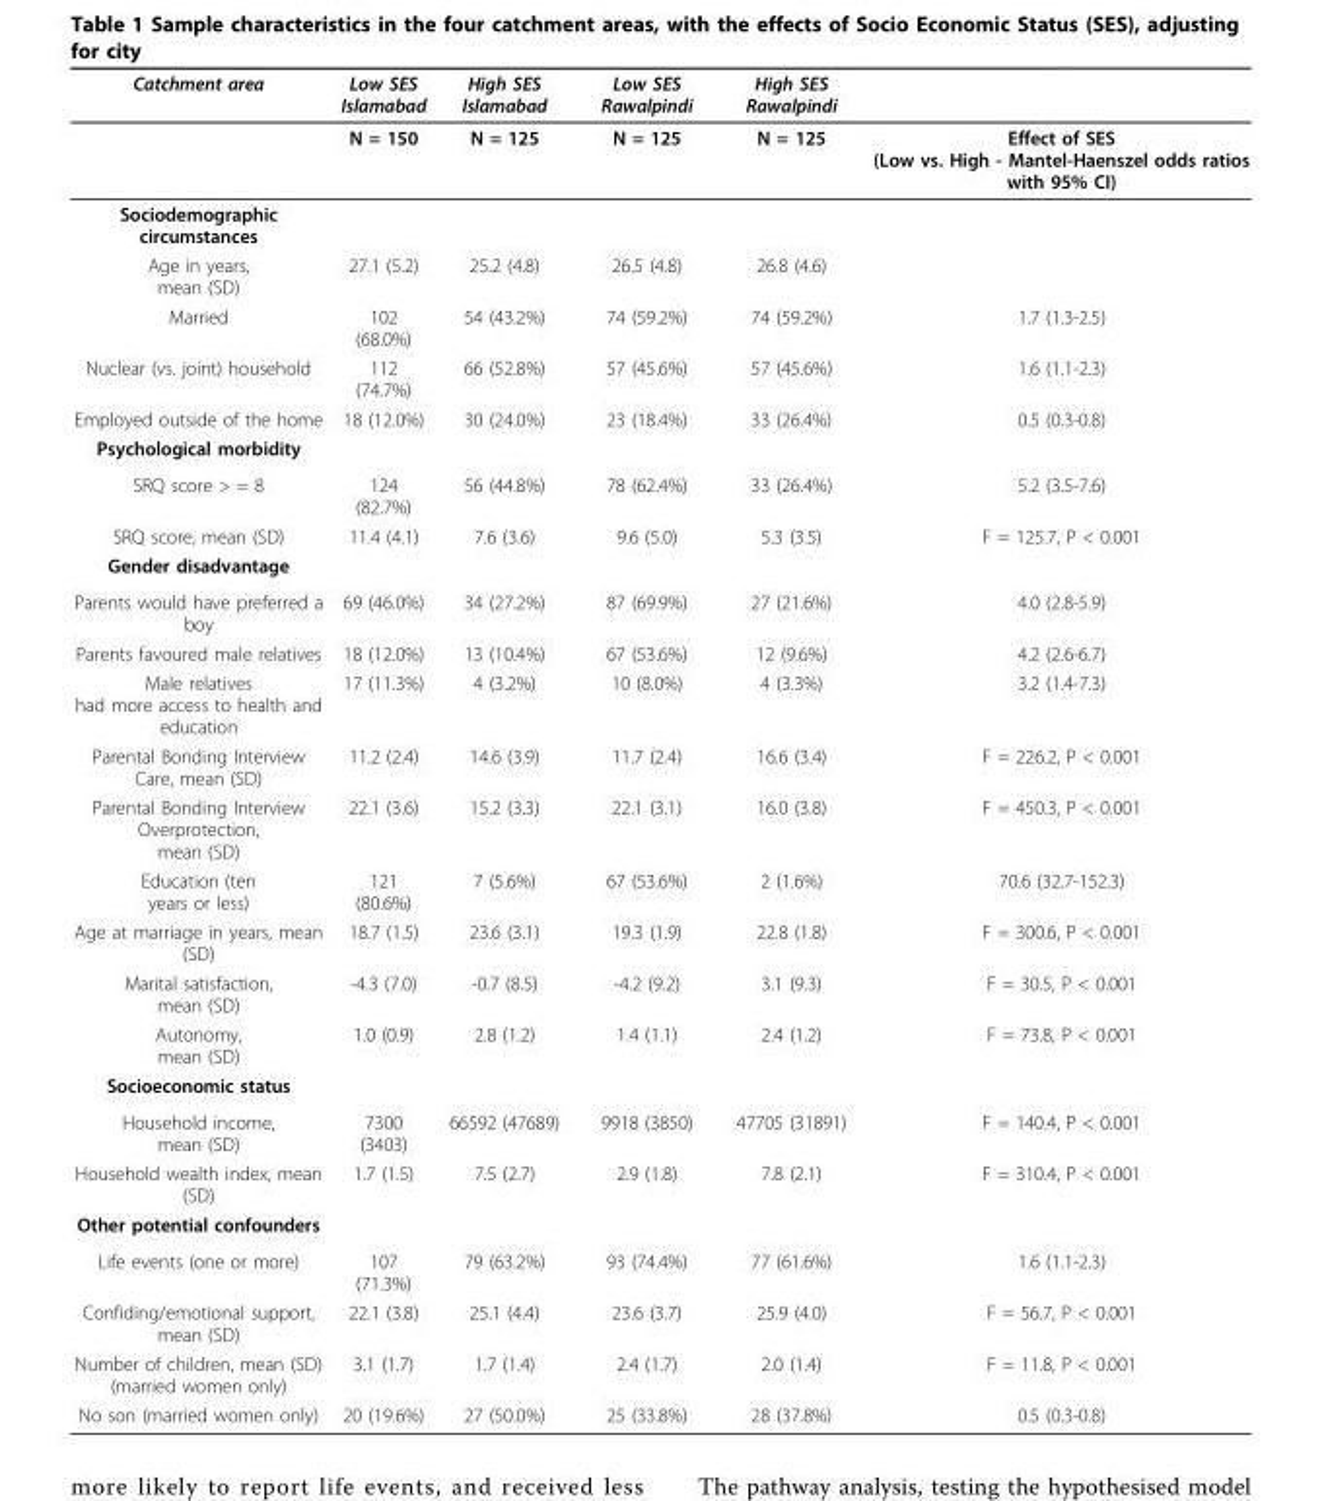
<table><thead><tr><td>Catchment area</td><td>Low SES Islamabad</td><td>High SES Islamabad</td><td>Low SES Rawalpindi</td><td>High SES Rawalpindi</td><td></td></tr></thead><tbody><tr><td></td><td>N = 150</td><td>N = 125</td><td>N = 125</td><td>N = 125</td><td>Effect of SES (Low vs. High - Mantel-Haenszel odds ratios with 95% CI)</td></tr><tr><td colspan="6">Sociodemographic circumstances</td></tr><tr><td>Age in years, mean (SD)</td><td>27.1 (5.2)</td><td>25.2 (4.8)</td><td>26.5 (4.8)</td><td>26.8 (4.6)</td><td></td></tr><tr><td>Married</td><td>102 (68.0%)</td><td>54 (43.2%)</td><td>74 (59.2%)</td><td>74 (59.2%)</td><td>1.7 (1.3-2.5)</td></tr><tr><td>Nuclear (vs. joint) household</td><td>112 (74.7%)</td><td>66 (52.8%)</td><td>57 (45.6%)</td><td>57 (45.6%)</td><td>1.6 (1.1-2.3)</td></tr><tr><td>Employed outside of the home</td><td>18 (12.0%)</td><td>30 (24.0%)</td><td>23 (18.4%)</td><td>33 (26.4%)</td><td>0.5 (0.3-0.8)</td></tr><tr><td colspan="6">Psychological morbidity</td></tr><tr><td>SRQ score &gt; = 8</td><td>124 (82.7%)</td><td>56 (44.8%)</td><td>78 (62.4%)</td><td>33 (26.4%)</td><td>5.2 (3.5-7.6)</td></tr><tr><td>SRQ score, mean (SD)</td><td>11.4 (4.1)</td><td>7.6 (3.6)</td><td>9.6 (5.0)</td><td>5.3 (3.5)</td><td>F = 125.7, P &lt; 0.001</td></tr><tr><td colspan="6">Gender disadvantage</td></tr><tr><td>Parents would have preferred a boy</td><td>69 (46.0%)</td><td>34 (27.2%)</td><td>87 (69.9%)</td><td>27 (21.6%)</td><td>4.0 (2.8-5.9)</td></tr><tr><td>Parents favoured male relatives</td><td>18 (12.0%)</td><td>13 (10.4%)</td><td>67 (53.6%)</td><td>12 (9.6%)</td><td>4.2 (2.6-6.7)</td></tr><tr><td>Male relatives had more access to health and education</td><td>17 (11.3%)</td><td>4 (3.2%)</td><td>10 (8.0%)</td><td>4 (3.3%)</td><td>3.2 (1.4-7.3)</td></tr><tr><td>Parental Bonding Interview Care, mean (SD)</td><td>11.2 (2.4)</td><td>14.6 (3.9)</td><td>11.7 (2.4)</td><td>16.6 (3.4)</td><td>F = 226.2, P &lt; 0.001</td></tr><tr><td>Parental Bonding Interview Overprotection, mean (SD)</td><td>22.1 (3.6)</td><td>15.2 (3.3)</td><td>22.1 (3.1)</td><td>16.0 (3.8)</td><td>F = 450.3, P &lt; 0.001</td></tr><tr><td>Education (ten years or less)</td><td>121 (80.6%)</td><td>7 (5.6%)</td><td>67 (53.6%)</td><td>2 (1.6%)</td><td>70.6 (32.7-152.3)</td></tr><tr><td>Age at marriage in years, mean (SD)</td><td>18.7 (1.5)</td><td>23.6 (3.1)</td><td>19.3 (1.9)</td><td>22.8 (1.8)</td><td>F = 300.6, P &lt; 0.001</td></tr><tr><td>Marital satisfaction, mean (SD)</td><td>-4.3 (7.0)</td><td>-0.7 (8.5)</td><td>-4.2 (9.2)</td><td>3.1 (9.3)</td><td>F = 30.5, P &lt; 0.001</td></tr><tr><td>Autonomy, mean (SD)</td><td>1.0 (0.9)</td><td>2.8 (1.2)</td><td>1.4 (1.1)</td><td>2.4 (1.2)</td><td>F = 73.8, P &lt; 0.001</td></tr><tr><td colspan="6">Socioeconomic status</td></tr><tr><td>Household income, mean (SD)</td><td>7300 (3403)</td><td>66592 (47689)</td><td>9918 (3850)</td><td>47705 (31891)</td><td>F = 140.4, P &lt; 0.001</td></tr><tr><td>Household wealth index, mean (SD)</td><td>1.7 (1.5)</td><td>7.5 (2.7)</td><td>2.9 (1.8)</td><td>7.8 (2.1)</td><td>F = 310.4, P &lt; 0.001</td></tr><tr><td colspan="6">Other potential confounders</td></tr><tr><td>Life events (one or more)</td><td>107 (71.3%)</td><td>79 (63.2%)</td><td>93 (74.4%)</td><td>77 (61.6%)</td><td>1.6 (1.1-2.3)</td></tr><tr><td>Confiding/emotional support, mean (SD)</td><td>22.1 (3.8)</td><td>25.1 (4.4)</td><td>23.6 (3.7)</td><td>25.9 (4.0)</td><td>F = 56.7, P &lt; 0.001</td></tr><tr><td>Number of children, mean (SD) (married women only)</td><td>3.1 (1.7)</td><td>1.7 (1.4)</td><td>2.4 (1.7)</td><td>2.0 (1.4)</td><td>F = 11.8, P &lt; 0.001</td></tr><tr><td>No son (married women only)</td><td>20 (19.6%)</td><td>27 (50.0%)</td><td>25 (33.8%)</td><td>28 (37.8%)</td><td>0.5 (0.3-0.8)</td></tr></tbody></table>